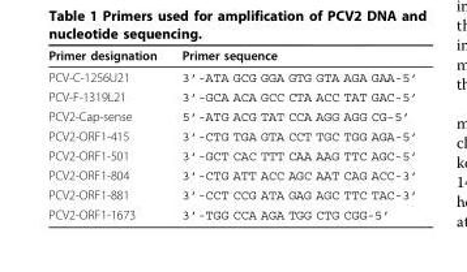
<table><thead><tr><td>Primer designation</td><td>Primer sequence</td></tr></thead><tbody><tr><td>PCV-C-1256U21</td><td>3’-ATA GCG GGA GTG GTA AGA GAA-5’</td></tr><tr><td>PCV-F-1319L21</td><td>3’-GCA ACA GCC CTA ACC TAT GAC-5’</td></tr><tr><td>PCV2-Cap-sense</td><td>5’-ATG ACG TAT CCA AGG AGG CG-5’</td></tr><tr><td>PCV2-ORF1-415</td><td>3’-CTG TGA GTA CCT TGC TGG AGA-5’</td></tr><tr><td>PCV2-ORF1-501</td><td>3’-GCT CAC TTT CAA AAG TTC AGC-5’</td></tr><tr><td>PCV2-ORF1-804</td><td>3’-CTG ATT ACC AGC AAT CAG ACC-3’</td></tr><tr><td>PCV2-ORF1-881</td><td>3’-CCT CCG ATA GAG AGC TTC TAC-3’</td></tr><tr><td>PCV2-ORF1-1673</td><td>3’-TGG CCA AGA TGG CTG CGG-5’</td></tr></tbody></table>